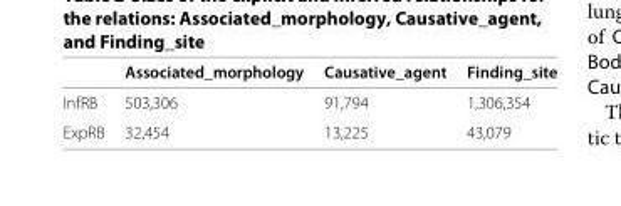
<table><thead><tr><td></td><td>Associated_morphology</td><td>Causative_agent</td><td>Finding_site</td></tr></thead><tbody><tr><td>InfRB</td><td>503,306</td><td>91,794</td><td>1,306,354</td></tr><tr><td>ExpRB</td><td>32,454</td><td>13,225</td><td>43,079</td></tr></tbody></table>